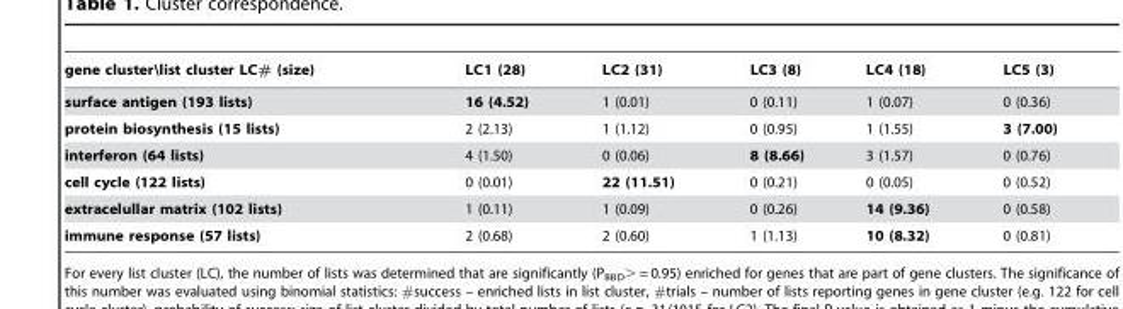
<table><thead><tr><td>gene cluster\list cluster LC# (size)</td><td>LC1 (28)</td><td>LC2 (31)</td><td>LC3 (8)</td><td>LC4 (18)</td><td>LC5 (3)</td></tr></thead><tbody><tr><td>surface antigen (193 lists)</td><td>16 (4.52)</td><td>1 (0.01)</td><td>0 (0.11)</td><td>1 (0.07)</td><td>0 (0.36)</td></tr><tr><td>protein biosynthesis (15 lists)</td><td>2 (2.13)</td><td>1 (1.12)</td><td>0 (0.95)</td><td>1 (1.55)</td><td>3 (7.00)</td></tr><tr><td>interferon (64 lists)</td><td>4 (1.50)</td><td>0 (0.06)</td><td>8 (8.66)</td><td>3 (1.57)</td><td>0 (0.76)</td></tr><tr><td>cell cycle (122 lists)</td><td>0 (0.01)</td><td>22 (11.51)</td><td>0 (0.21)</td><td>0 (0.05)</td><td>0 (0.52)</td></tr><tr><td>extracelullar matrix (102 lists)</td><td>1 (0.11)</td><td>1 (0.09)</td><td>0 (0.26)</td><td>14 (9.36)</td><td>0 (0.58)</td></tr><tr><td>immune response (57 lists)</td><td>2 (0.68)</td><td>2 (0.60)</td><td>1 (1.13)</td><td>10 (8.32)</td><td>0 (0.81)</td></tr></tbody></table>